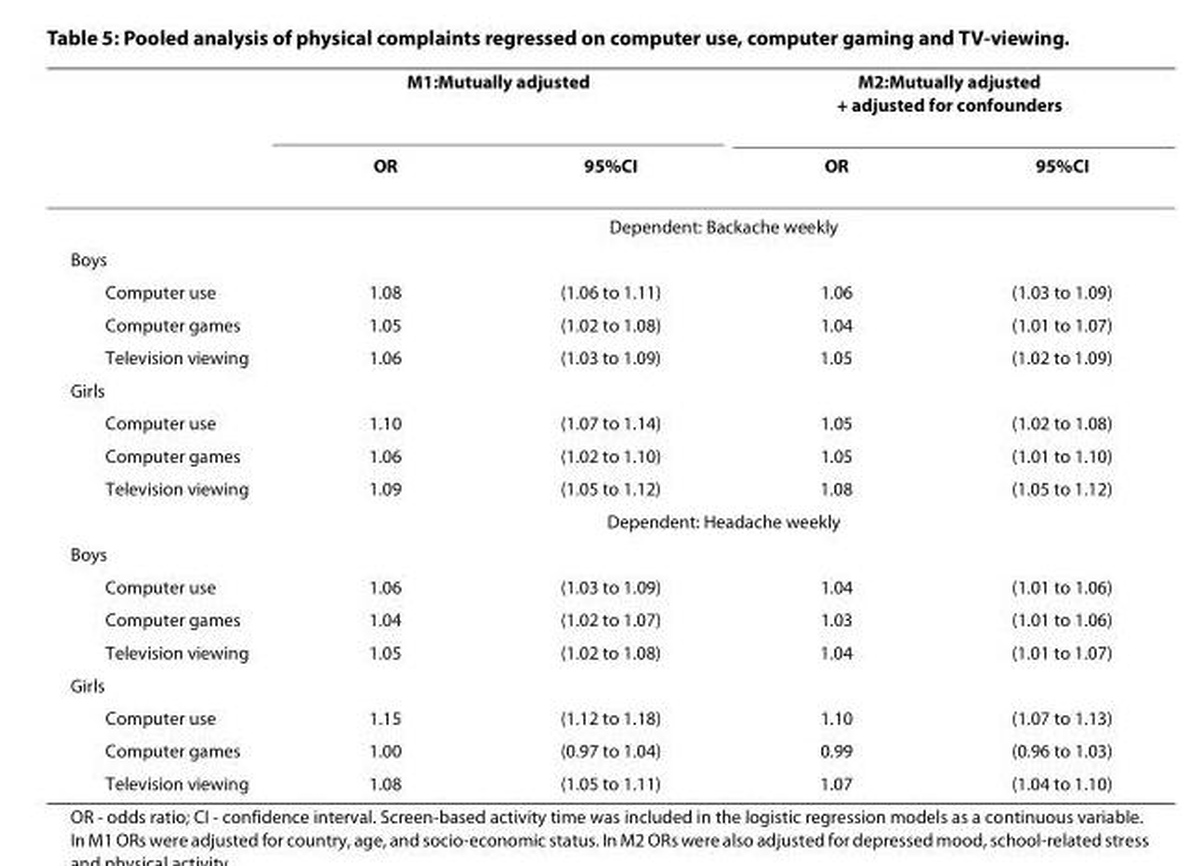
<table><thead><tr><td rowspan="2"></td><td colspan="2">M1:Mutually adjusted</td><td colspan="2">M2:Mutually adjusted + adjusted for confounders</td></tr><tr><td>OR</td><td>95%CI</td><td>OR</td><td>95%CI</td></tr></thead><tbody><tr><td></td><td colspan="4">Dependent: Backache weekly</td></tr><tr><td colspan="5">Boys</td></tr><tr><td>Computer use</td><td>1.08</td><td>(1.06 to 1.11)</td><td>1.06</td><td>(1.03 to 1.09)</td></tr><tr><td>Computer games</td><td>1.05</td><td>(1.02 to 1.08)</td><td>1.04</td><td>(1.01 to 1.07)</td></tr><tr><td>Television viewing</td><td>1.06</td><td>(1.03 to 1.09)</td><td>1.05</td><td>(1.02 to 1.09)</td></tr><tr><td colspan="5">Girls</td></tr><tr><td>Computer use</td><td>1.10</td><td>(1.07 to 1.14)</td><td>1.05</td><td>(1.02 to 1.08)</td></tr><tr><td>Computer games</td><td>1.06</td><td>(1.02 to 1.10)</td><td>1.05</td><td>(1.01 to 1.10)</td></tr><tr><td rowspan="2">Television viewing</td><td>1.09</td><td>(1.05 to 1.12)</td><td>1.08</td><td>(1.05 to 1.12)</td></tr><tr><td colspan="4">Dependent: Headache weekly</td></tr><tr><td colspan="5">Boys</td></tr><tr><td>Computer use</td><td>1.06</td><td>(1.03 to 1.09)</td><td>1.04</td><td>(1.01 to 1.06)</td></tr><tr><td>Computer games</td><td>1.04</td><td>(1.02 to 1.07)</td><td>1.03</td><td>(1.01 to 1.06)</td></tr><tr><td>Television viewing</td><td>1.05</td><td>(1.02 to 1.08)</td><td>1.04</td><td>(1.01 to 1.07)</td></tr><tr><td colspan="5">Girls</td></tr><tr><td>Computer use</td><td>1.15</td><td>(1.12 to 1.18)</td><td>1.10</td><td>(1.07 to 1.13)</td></tr><tr><td>Computer games</td><td>1.00</td><td>(0.97 to 1.04)</td><td>0.99</td><td>(0.96 to 1.03)</td></tr><tr><td>Television viewing</td><td>1.08</td><td>(1.05 to 1.11)</td><td>1.07</td><td>(1.04 to 1.10)</td></tr></tbody></table>